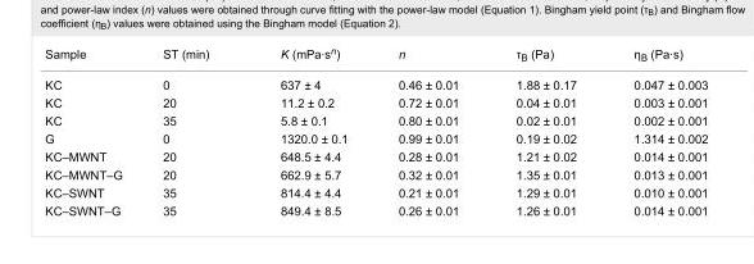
<table><tbody><tr><td>Sample</td><td>ST (min)</td><td>K (mPa·s<sup>n</sup>)</td><td>n</td><td>τ<sub>B</sub> (Pa)</td><td>η<sub>B</sub> (Pa·s)</td></tr><tr><td>KC</td><td>0</td><td>637 ± 4</td><td>0.46 ± 0.01</td><td>1.88 ± 0.17</td><td>0.047 ± 0.003</td></tr><tr><td>KC</td><td>20</td><td>11.2 ± 0.2</td><td>0.72 ± 0.01</td><td>0.04 ± 0.01</td><td>0.003 ± 0.001</td></tr><tr><td>KC</td><td>35</td><td>5.8 ± 0.1</td><td>0.80 ± 0.01</td><td>0.02 ± 0.01</td><td>0.002 ± 0.001</td></tr><tr><td>G</td><td>0</td><td>1320.0 ± 0.1</td><td>0.99 ± 0.01</td><td>0.19 ± 0.02</td><td>1.314 ± 0.002</td></tr><tr><td>KC–MWNT</td><td>20</td><td>648.5 ± 4.4</td><td>0.28 ± 0.01</td><td>1.21 ± 0.02</td><td>0.014 ± 0.001</td></tr><tr><td>KC–MWNT–G</td><td>20</td><td>662.9 ± 5.7</td><td>0.32 ± 0.01</td><td>1.35 ± 0.01</td><td>0.013 ± 0.001</td></tr><tr><td>KC–SWNT</td><td>35</td><td>814.4 ± 4.4</td><td>0.21 ± 0.01</td><td>1.29 ± 0.01</td><td>0.010 ± 0.001</td></tr><tr><td>KC–SWNT–G</td><td>35</td><td>849.4 ± 8.5</td><td>0.26 ± 0.01</td><td>1.26 ± 0.01</td><td>0.014 ± 0.001</td></tr></tbody></table>